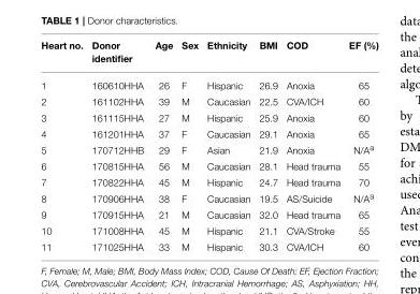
<table><thead><tr><td>Heart no.</td><td>Donor identifier</td><td>Age</td><td>Sex</td><td>Ethnicity</td><td>BMI</td><td>COD</td><td>EF (%)</td></tr></thead><tbody><tr><td>1</td><td>160610HHA</td><td>26</td><td>F</td><td>Hispanic</td><td>26.9</td><td>Anoxia</td><td>65</td></tr><tr><td>2</td><td>161102HHA</td><td>39</td><td>M</td><td>Caucasian</td><td>22.5</td><td>CVA/ICH</td><td>60</td></tr><tr><td>3</td><td>161115HHA</td><td>27</td><td>M</td><td>Hispanic</td><td>25.9</td><td>Anoxia</td><td>60</td></tr><tr><td>4</td><td>161201HHA</td><td>37</td><td>F</td><td>Caucasian</td><td>29.1</td><td>Anoxia</td><td>65</td></tr><tr><td>5</td><td>170712HHB</td><td>29</td><td>F</td><td>Asian</td><td>21.9</td><td>Anoxia</td><td>N/A<sup>a</sup></td></tr><tr><td>6</td><td>170815HHA</td><td>56</td><td>M</td><td>Caucasian</td><td>28.1</td><td>Head trauma</td><td>55</td></tr><tr><td>7</td><td>170822HHA</td><td>45</td><td>M</td><td>Hispanic</td><td>24.7</td><td>Head trauma</td><td>70</td></tr><tr><td>8</td><td>170906HHA</td><td>38</td><td>F</td><td>Caucasian</td><td>19.5</td><td>AS/Suicide</td><td>N/A<sup>a</sup></td></tr><tr><td>9</td><td>170915HHA</td><td>21</td><td>M</td><td>Caucasian</td><td>32.0</td><td>Head trauma</td><td>65</td></tr><tr><td>10</td><td>171008HHA</td><td>45</td><td>M</td><td>Hispanic</td><td>21.1</td><td>CVA/Stroke</td><td>55</td></tr><tr><td>11</td><td>171025HHA</td><td>33</td><td>M</td><td>Hispanic</td><td>30.3</td><td>CVA/ICH</td><td>60</td></tr></tbody></table>